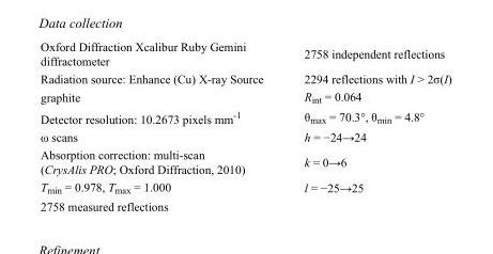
<table><tbody><tr><td>Oxford Diffraction Xcalibur Ruby Gemini diffractometer</td><td>2758 independent reflections</td></tr><tr><td>Radiation source: Enhance (Cu) X-ray Source</td><td>2294 reflections with I &gt; 2σ(I)</td></tr><tr><td>graphite</td><td>R<sub>int</sub> = 0.064</td></tr><tr><td>Detector resolution: 10.2673 pixels mm<sup>-1</sup></td><td>θ<sub>max</sub> = 70.3°, θ<sub>min</sub> = 4.8°</td></tr><tr><td>ω scans</td><td>h = −24→24</td></tr><tr><td>Absorption correction: multi-scan (CrysAlis PRO; Oxford Diffraction, 2010)</td><td>k = 0→6</td></tr><tr><td>T<sub>min</sub> = 0.978, T<sub>max</sub> = 1.000</td><td>l = −25→25</td></tr><tr><td>2758 measured reflections</td><td></td></tr></tbody></table>